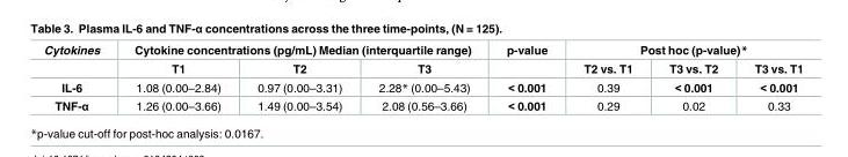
<table><thead><tr><td rowspan="2">Cytokines</td><td colspan="3">Cytokine concentrations (pg/mL) Median (interquartile range)</td><td rowspan="2">p-value</td><td colspan="3">Post hoc (p-value)*</td></tr><tr><td>T1</td><td>T2</td><td>T3</td><td>T2 vs. T1</td><td>T3 vs. T2</td><td>T3 vs. T1</td></tr></thead><tbody><tr><td>IL-6</td><td>1.08 (0.00–2.84)</td><td>0.97 (0.00–3.31)</td><td>2.28* (0.00–5.43)</td><td>&lt; 0.001</td><td>0.39</td><td>&lt; 0.001</td><td>&lt; 0.001</td></tr><tr><td>TNF-α</td><td>1.26 (0.00–3.66)</td><td>1.49 (0.00–3.54)</td><td>2.08 (0.56–3.66)</td><td>&lt; 0.001</td><td>0.29</td><td>0.02</td><td>0.33</td></tr></tbody></table>